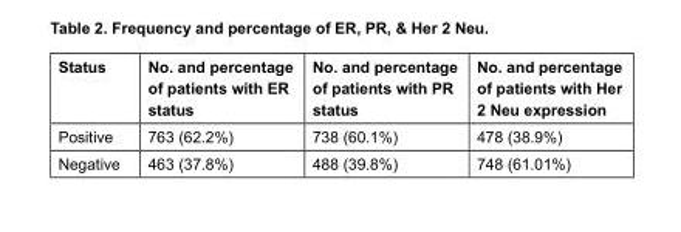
<table><thead><tr><td>Status</td><td>No. and percentage of patients with ER status</td><td>No. and percentage of patients with PR status</td><td>No. and percentage of patients with Her 2 Neu expression</td></tr></thead><tbody><tr><td>Positive</td><td>763 (62.2%)</td><td>738 (60.1%)</td><td>478 (38.9%)</td></tr><tr><td>Negative</td><td>463 (37.8%)</td><td>488 (39.8%)</td><td>748 (61.01%)</td></tr></tbody></table>